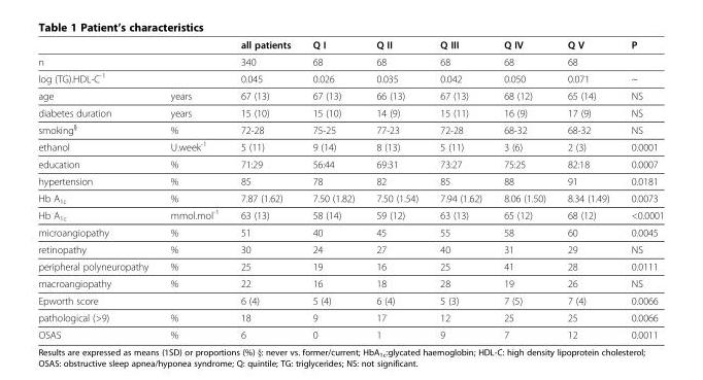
<table><thead><tr><td></td><td></td><td>all patients</td><td>Q I</td><td>Q II</td><td>Q III</td><td>Q IV</td><td>Q V</td><td>P</td></tr></thead><tbody><tr><td>n</td><td></td><td>340</td><td>68</td><td>68</td><td>68</td><td>68</td><td>68</td><td></td></tr><tr><td>log (TG).HDL-C<sup>-1</sup></td><td></td><td>0.045</td><td>0.026</td><td>0.035</td><td>0.042</td><td>0.050</td><td>0.071</td><td>~</td></tr><tr><td>age</td><td>years</td><td>67 (13)</td><td>67 (13)</td><td>66 (13)</td><td>67 (13)</td><td>68 (12)</td><td>65 (14)</td><td>NS</td></tr><tr><td>diabetes duration</td><td>years</td><td>15 (10)</td><td>15 (10)</td><td>14 (9)</td><td>15 (11)</td><td>16 (9)</td><td>17 (9)</td><td>NS</td></tr><tr><td>smoking<sup>§</sup></td><td>%</td><td>72-28</td><td>75-25</td><td>77-23</td><td>72-28</td><td>68-32</td><td>68-32</td><td>NS</td></tr><tr><td>ethanol</td><td>U.week<sup>-1</sup></td><td>5 (11)</td><td>9 (14)</td><td>8 (13)</td><td>5 (11)</td><td>3 (6)</td><td>2 (3)</td><td>0.0001</td></tr><tr><td>education</td><td>%</td><td>71:29</td><td>56:44</td><td>69:31</td><td>73:27</td><td>75:25</td><td>82:18</td><td>0.0007</td></tr><tr><td>hypertension</td><td>%</td><td>85</td><td>78</td><td>82</td><td>85</td><td>88</td><td>91</td><td>0.0181</td></tr><tr><td>Hb A<sub>1c</sub></td><td>%</td><td>7.87 (1.62)</td><td>7.50 (1.82)</td><td>7.50 (1.54)</td><td>7.94 (1.62)</td><td>8.06 (1.50)</td><td>8.34 (1.49)</td><td>0.0073</td></tr><tr><td>Hb A<sub>1c</sub></td><td>mmol.mol<sup>-1</sup></td><td>63 (13)</td><td>58 (14)</td><td>59 (12)</td><td>63 (13)</td><td>65 (12)</td><td>68 (12)</td><td>&lt;0.0001</td></tr><tr><td>microangiopathy</td><td>%</td><td>51</td><td>40</td><td>45</td><td>55</td><td>58</td><td>60</td><td>0.0045</td></tr><tr><td>retinopathy</td><td>%</td><td>30</td><td>24</td><td>27</td><td>40</td><td>31</td><td>29</td><td>NS</td></tr><tr><td>peripheral polyneuropathy</td><td>%</td><td>25</td><td>19</td><td>16</td><td>25</td><td>41</td><td>28</td><td>0.0111</td></tr><tr><td>macroangiopathy</td><td>%</td><td>22</td><td>16</td><td>18</td><td>28</td><td>19</td><td>26</td><td>NS</td></tr><tr><td>Epworth score</td><td></td><td>6 (4)</td><td>5 (4)</td><td>6 (4)</td><td>5 (3)</td><td>7 (5)</td><td>7 (4)</td><td>0.0066</td></tr><tr><td>pathological (&gt;9)</td><td>%</td><td>18</td><td>9</td><td>17</td><td>12</td><td>25</td><td>25</td><td>0.0066</td></tr><tr><td>OSAS</td><td>%</td><td>6</td><td>0</td><td>1</td><td>9</td><td>7</td><td>12</td><td>0.0011</td></tr></tbody></table>